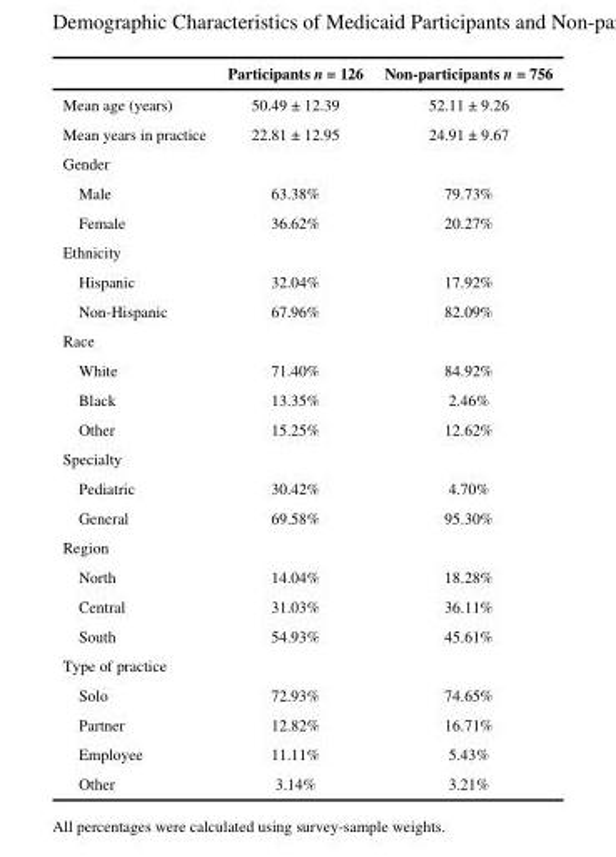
<table><thead><tr><td></td><td>Participants n = 126</td><td>Non-participants n = 756</td></tr></thead><tbody><tr><td>Mean age (years)</td><td>50.49 ± 12.39</td><td>52.11 ± 9.26</td></tr><tr><td>Mean years in practice</td><td>22.81 ± 12.95</td><td>24.91 ± 9.67</td></tr><tr><td colspan="3">Gender</td></tr><tr><td>Male</td><td>63.38%</td><td>79.73%</td></tr><tr><td>Female</td><td>36.62%</td><td>20.27%</td></tr><tr><td colspan="3">Ethnicity</td></tr><tr><td>Hispanic</td><td>32.04%</td><td>17.92%</td></tr><tr><td>Non-Hispanic</td><td>67.96%</td><td>82.09%</td></tr><tr><td colspan="3">Race</td></tr><tr><td>White</td><td>71.40%</td><td>84.92%</td></tr><tr><td>Black</td><td>13.35%</td><td>2.46%</td></tr><tr><td>Other</td><td>15.25%</td><td>12.62%</td></tr><tr><td colspan="3">Specialty</td></tr><tr><td>Pediatric</td><td>30.42%</td><td>4.70%</td></tr><tr><td>General</td><td>69.58%</td><td>95.30%</td></tr><tr><td colspan="3">Region</td></tr><tr><td>North</td><td>14.04%</td><td>18.28%</td></tr><tr><td>Central</td><td>31.03%</td><td>36.11%</td></tr><tr><td>South</td><td>54.93%</td><td>45.61%</td></tr><tr><td colspan="3">Type of practice</td></tr><tr><td>Solo</td><td>72.93%</td><td>74.65%</td></tr><tr><td>Partner</td><td>12.82%</td><td>16.71%</td></tr><tr><td>Employee</td><td>11.11%</td><td>5.43%</td></tr><tr><td>Other</td><td>3.14%</td><td>3.21%</td></tr></tbody></table>